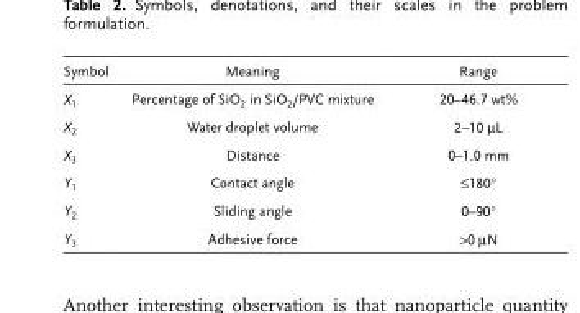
<table><thead><tr><td>Symbol</td><td>Meaning</td><td>Range</td></tr></thead><tbody><tr><td>X<sub>1</sub></td><td>Percentage of SiO<sub>2</sub> in SiO<sub>2</sub>/PVC mixture</td><td>20–46.7 wt%</td></tr><tr><td>X<sub>2</sub></td><td>Water droplet volume</td><td>2–10 µL</td></tr><tr><td>X<sub>3</sub></td><td>Distance</td><td>0–1.0 mm</td></tr><tr><td>Y<sub>1</sub></td><td>Contact angle</td><td>≤180°</td></tr><tr><td>Y<sub>2</sub></td><td>Sliding angle</td><td>0–90°</td></tr><tr><td>Y<sub>3</sub></td><td>Adhesive force</td><td>&gt;0 µN</td></tr></tbody></table>